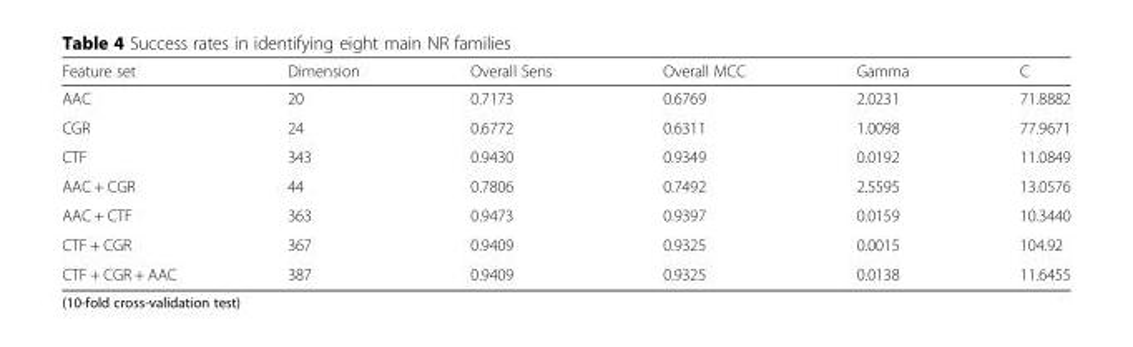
<table><thead><tr><td>Feature set</td><td>Dimension</td><td>Overall Sens</td><td>Overall MCC</td><td>Gamma</td><td>C</td></tr></thead><tbody><tr><td>AAC</td><td>20</td><td>0.7173</td><td>0.6769</td><td>2.0231</td><td>71.8882</td></tr><tr><td>CGR</td><td>24</td><td>0.6772</td><td>0.6311</td><td>1.0098</td><td>77.9671</td></tr><tr><td>CTF</td><td>343</td><td>0.9430</td><td>0.9349</td><td>0.0192</td><td>11.0849</td></tr><tr><td>AAC + CGR</td><td>44</td><td>0.7806</td><td>0.7492</td><td>2.5595</td><td>13.0576</td></tr><tr><td>AAC + CTF</td><td>363</td><td>0.9473</td><td>0.9397</td><td>0.0159</td><td>10.3440</td></tr><tr><td>CTF + CGR</td><td>367</td><td>0.9409</td><td>0.9325</td><td>0.0015</td><td>104.92</td></tr><tr><td>CTF + CGR + AAC</td><td>387</td><td>0.9409</td><td>0.9325</td><td>0.0138</td><td>11.6455</td></tr></tbody></table>